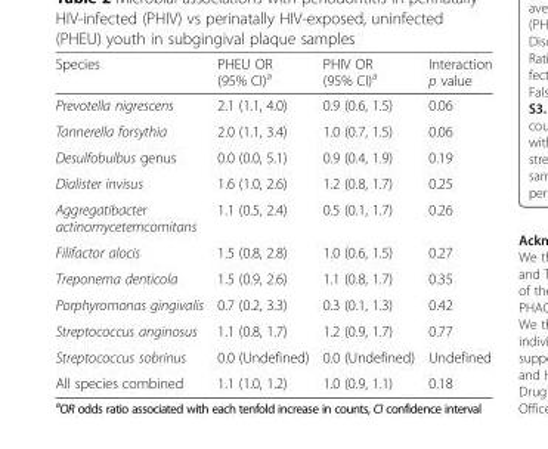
<table><thead><tr><td>Species</td><td>PHEU OR (95% CI)<sup>a</sup></td><td>PHIV OR (95% CI)<sup>a</sup></td><td>Interaction p value</td></tr></thead><tbody><tr><td>Prevotella nigrescens</td><td>2.1 (1.1, 4.0)</td><td>0.9 (0.6, 1.5)</td><td>0.06</td></tr><tr><td>Tannerella forsythia</td><td>2.0 (1.1, 3.4)</td><td>1.0 (0.7, 1.5)</td><td>0.06</td></tr><tr><td>Desulfobulbus genus</td><td>0.0 (0.0, 5.1)</td><td>0.9 (0.4, 1.9)</td><td>0.19</td></tr><tr><td>Dialister invisus</td><td>1.6 (1.0, 2.6)</td><td>1.2 (0.8, 1.7)</td><td>0.25</td></tr><tr><td>Aggregatibacter actinomycetemcomitans</td><td>1.1 (0.5, 2.4)</td><td>0.5 (0.1, 1.7)</td><td>0.26</td></tr><tr><td>Filifactor alocis</td><td>1.5 (0.8, 2.8)</td><td>1.0 (0.6, 1.5)</td><td>0.27</td></tr><tr><td>Treponema denticola</td><td>1.5 (0.9, 2.6)</td><td>1.1 (0.8, 1.7)</td><td>0.35</td></tr><tr><td>Porphyromonas gingivalis</td><td>0.7 (0.2, 3.3)</td><td>0.3 (0.1, 1.3)</td><td>0.42</td></tr><tr><td>Streptococcus anginosus</td><td>1.1 (0.8, 1.7)</td><td>1.2 (0.9, 1.7)</td><td>0.77</td></tr><tr><td>Streptococcus sobrinus</td><td>0.0 (Undefined)</td><td>0.0 (Undefined)</td><td>Undefined</td></tr><tr><td>All species combined</td><td>1.1 (1.0, 1.2)</td><td>1.0 (0.9, 1.1)</td><td>0.18</td></tr></tbody></table>